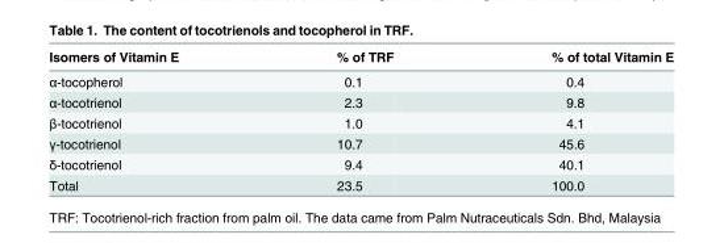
<table><thead><tr><td>Isomers of Vitamin E</td><td>% of TRF</td><td>% of total Vitamin E</td></tr></thead><tbody><tr><td>α-tocopherol</td><td>0.1</td><td>0.4</td></tr><tr><td>α-tocotrienol</td><td>2.3</td><td>9.8</td></tr><tr><td>β-tocotrienol</td><td>1.0</td><td>4.1</td></tr><tr><td>γ-tocotrienol</td><td>10.7</td><td>45.6</td></tr><tr><td>δ-tocotrienol</td><td>9.4</td><td>40.1</td></tr><tr><td>Total</td><td>23.5</td><td>100.0</td></tr></tbody></table>